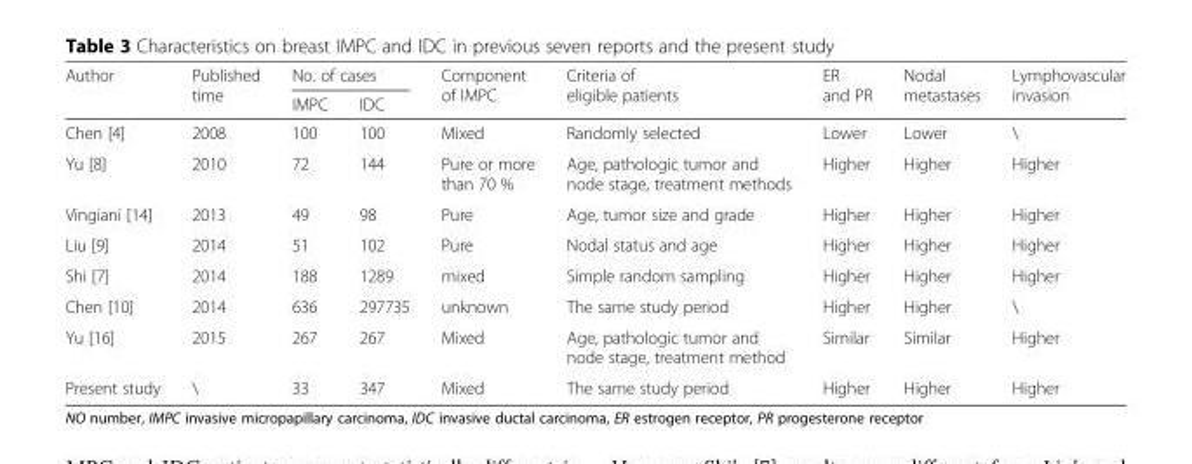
<table><thead><tr><td rowspan="2">Author</td><td rowspan="2">Published time</td><td colspan="2">No. of cases</td><td rowspan="2">Component of IMPC</td><td rowspan="2">Criteria of eligible patients</td><td rowspan="2">ER and PR</td><td rowspan="2">Nodal metastases</td><td rowspan="2">Lymphovascular invasion</td></tr><tr><td>IMPC</td><td>IDC</td></tr></thead><tbody><tr><td>Chen [4]</td><td>2008</td><td>100</td><td>100</td><td>Mixed</td><td>Randomly selected</td><td>Lower</td><td>Lower</td><td>\</td></tr><tr><td>Yu [8]</td><td>2010</td><td>72</td><td>144</td><td>Pure or more than 70 %</td><td>Age, pathologic tumor and node stage, treatment methods</td><td>Higher</td><td>Higher</td><td>Higher</td></tr><tr><td>Vingiani [14]</td><td>2013</td><td>49</td><td>98</td><td>Pure</td><td>Age, tumor size and grade</td><td>Higher</td><td>Higher</td><td>Higher</td></tr><tr><td>Liu [9]</td><td>2014</td><td>51</td><td>102</td><td>Pure</td><td>Nodal status and age</td><td>Higher</td><td>Higher</td><td>Higher</td></tr><tr><td>Shi [7]</td><td>2014</td><td>188</td><td>1289</td><td>mixed</td><td>Simple random sampling</td><td>Higher</td><td>Higher</td><td>Higher</td></tr><tr><td>Chen [10]</td><td>2014</td><td>636</td><td>297735</td><td>unknown</td><td>The same study period</td><td>Higher</td><td>Higher</td><td>\</td></tr><tr><td>Yu [16]</td><td>2015</td><td>267</td><td>267</td><td>Mixed</td><td>Age, pathologic tumor and node stage, treatment method</td><td>Similar</td><td>Similar</td><td>Higher</td></tr><tr><td>Present study</td><td>\</td><td>33</td><td>347</td><td>Mixed</td><td>The same study period</td><td>Higher</td><td>Higher</td><td>Higher</td></tr></tbody></table>